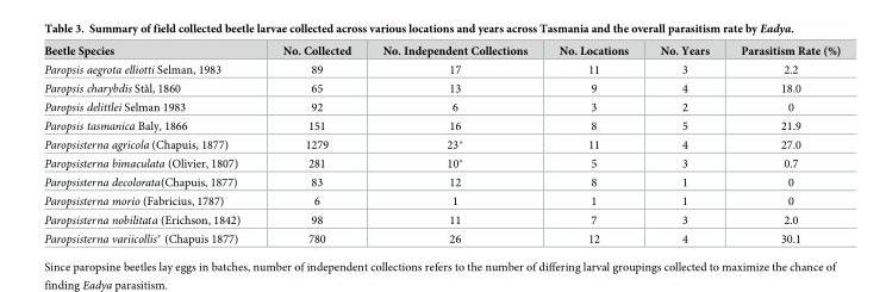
<table><thead><tr><td>Beetle Species</td><td>No. Collected</td><td>No. Independent Collections</td><td>No. Locations</td><td>No. Years</td><td>Parasitism Rate (%)</td></tr></thead><tbody><tr><td>Paropsis aegrota elliotti Selman, 1983</td><td>89</td><td>17</td><td>11</td><td>3</td><td>2.2</td></tr><tr><td>Paropsis charybdis Stål, 1860</td><td>65</td><td>13</td><td>9</td><td>4</td><td>18.0</td></tr><tr><td>Paropsis delittlei Selman 1983</td><td>92</td><td>6</td><td>3</td><td>2</td><td>0</td></tr><tr><td>Paropsis tasmanica Baly, 1866</td><td>151</td><td>16</td><td>8</td><td>5</td><td>21.9</td></tr><tr><td>Paropsisterna agricola (Chapuis, 1877)</td><td>1279</td><td>23*</td><td>11</td><td>4</td><td>27.0</td></tr><tr><td>Paropsisterna bimaculata (Olivier, 1807)</td><td>281</td><td>10*</td><td>5</td><td>3</td><td>0.7</td></tr><tr><td>Paropsisterna decolorata(Chapuis, 1877)</td><td>83</td><td>12</td><td>8</td><td>1</td><td>0</td></tr><tr><td>Paropsisterna morio (Fabricius, 1787)</td><td>6</td><td>1</td><td>1</td><td>1</td><td>0</td></tr><tr><td>Paropsisterna nobilitata (Erichson, 1842)</td><td>98</td><td>11</td><td>7</td><td>3</td><td>2.0</td></tr><tr><td>Paropsisterna variicollis* (Chapuis 1877)</td><td>780</td><td>26</td><td>12</td><td>4</td><td>30.1</td></tr></tbody></table>